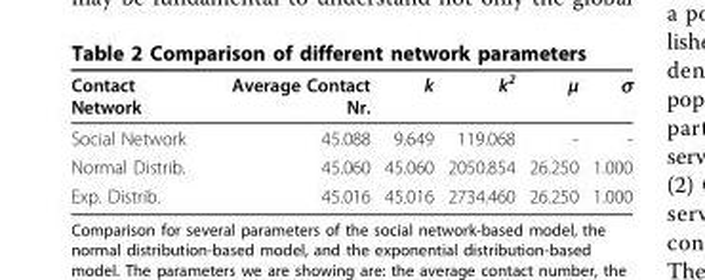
<table><thead><tr><td>Contact Network</td><td>Average Contact Nr.</td><td>k</td><td>k<sup>2</sup></td><td>μ</td><td>σ</td></tr></thead><tbody><tr><td>Social Network</td><td>45.088</td><td>9.649</td><td>119.068</td><td>-</td><td>-</td></tr><tr><td>Normal Distrib.</td><td>45.060</td><td>45.060</td><td>2050.854</td><td>26.250</td><td>1.000</td></tr><tr><td>Exp. Distrib.</td><td>45.016</td><td>45.016</td><td>2734.460</td><td>26.250</td><td>1.000</td></tr></tbody></table>